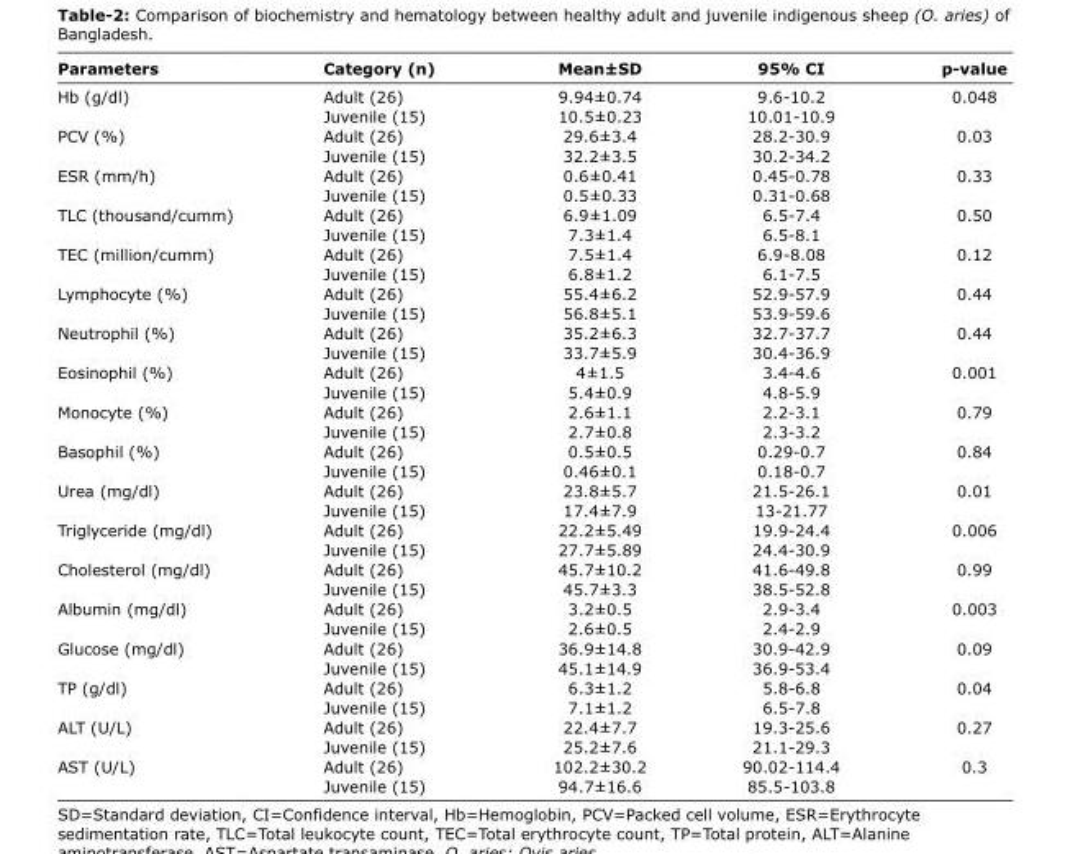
<table><thead><tr><td>Parameters</td><td>Category (n)</td><td>Mean±SD</td><td>95% CI</td><td>p-value</td></tr></thead><tbody><tr><td rowspan="2">Hb (g/dl)</td><td>Adult (26)</td><td>9.94±0.74</td><td>9.6-10.2</td><td>0.048</td></tr><tr><td>Juvenile (15)</td><td>10.5±0.23</td><td>10.01-10.9</td><td></td></tr><tr><td rowspan="2">PCV (%)</td><td>Adult (26)</td><td>29.6±3.4</td><td>28.2-30.9</td><td>0.03</td></tr><tr><td>Juvenile (15)</td><td>32.2±3.5</td><td>30.2-34.2</td><td></td></tr><tr><td rowspan="2">ESR (mm/h)</td><td>Adult (26)</td><td>0.6±0.41</td><td>0.45-0.78</td><td>0.33</td></tr><tr><td>Juvenile (15)</td><td>0.5±0.33</td><td>0.31-0.68</td><td></td></tr><tr><td rowspan="2">TLC (thousand/cumm)</td><td>Adult (26)</td><td>6.9±1.09</td><td>6.5-7.4</td><td>0.50</td></tr><tr><td>Juvenile (15)</td><td>7.3±1.4</td><td>6.5-8.1</td><td></td></tr><tr><td rowspan="2">TEC (million/cumm)</td><td>Adult (26)</td><td>7.5±1.4</td><td>6.9-8.08</td><td>0.12</td></tr><tr><td>Juvenile (15)</td><td>6.8±1.2</td><td>6.1-7.5</td><td></td></tr><tr><td rowspan="2">Lymphocyte (%)</td><td>Adult (26)</td><td>55.4±6.2</td><td>52.9-57.9</td><td>0.44</td></tr><tr><td>Juvenile (15)</td><td>56.8±5.1</td><td>53.9-59.6</td><td></td></tr><tr><td rowspan="2">Neutrophil (%)</td><td>Adult (26)</td><td>35.2±6.3</td><td>32.7-37.7</td><td>0.44</td></tr><tr><td>Juvenile (15)</td><td>33.7±5.9</td><td>30.4-36.9</td><td></td></tr><tr><td rowspan="2">Eosinophil (%)</td><td>Adult (26)</td><td>4±1.5</td><td>3.4-4.6</td><td>0.001</td></tr><tr><td>Juvenile (15)</td><td>5.4±0.9</td><td>4.8-5.9</td><td></td></tr><tr><td rowspan="2">Monocyte (%)</td><td>Adult (26)</td><td>2.6±1.1</td><td>2.2-3.1</td><td>0.79</td></tr><tr><td>Juvenile (15)</td><td>2.7±0.8</td><td>2.3-3.2</td><td></td></tr><tr><td rowspan="2">Basophil (%)</td><td>Adult (26)</td><td>0.5±0.5</td><td>0.29-0.7</td><td>0.84</td></tr><tr><td>Juvenile (15)</td><td>0.46±0.1</td><td>0.18-0.7</td><td></td></tr><tr><td rowspan="2">Urea (mg/dl)</td><td>Adult (26)</td><td>23.8±5.7</td><td>21.5-26.1</td><td>0.01</td></tr><tr><td>Juvenile (15)</td><td>17.4±7.9</td><td>13-21.77</td><td></td></tr><tr><td rowspan="2">Triglyceride (mg/dl)</td><td>Adult (26)</td><td>22.2±5.49</td><td>19.9-24.4</td><td>0.006</td></tr><tr><td>Juvenile (15)</td><td>27.7±5.89</td><td>24.4-30.9</td><td></td></tr><tr><td rowspan="2">Cholesterol (mg/dl)</td><td>Adult (26)</td><td>45.7±10.2</td><td>41.6-49.8</td><td>0.99</td></tr><tr><td>Juvenile (15)</td><td>45.7±3.3</td><td>38.5-52.8</td><td></td></tr><tr><td rowspan="2">Albumin (mg/dl)</td><td>Adult (26)</td><td>3.2±0.5</td><td>2.9-3.4</td><td>0.003</td></tr><tr><td>Juvenile (15)</td><td>2.6±0.5</td><td>2.4-2.9</td><td></td></tr><tr><td rowspan="2">Glucose (mg/dl)</td><td>Adult (26)</td><td>36.9±14.8</td><td>30.9-42.9</td><td>0.09</td></tr><tr><td>Juvenile (15)</td><td>45.1±14.9</td><td>36.9-53.4</td><td></td></tr><tr><td rowspan="2">TP (g/dl)</td><td>Adult (26)</td><td>6.3±1.2</td><td>5.8-6.8</td><td>0.04</td></tr><tr><td>Juvenile (15)</td><td>7.1±1.2</td><td>6.5-7.8</td><td></td></tr><tr><td rowspan="2">ALT (U/L)</td><td>Adult (26)</td><td>22.4±7.7</td><td>19.3-25.6</td><td>0.27</td></tr><tr><td>Juvenile (15)</td><td>25.2±7.6</td><td>21.1-29.3</td><td></td></tr><tr><td rowspan="2">AST (U/L)</td><td>Adult (26)</td><td>102.2±30.2</td><td>90.02-114.4</td><td>0.3</td></tr><tr><td>Juvenile (15)</td><td>94.7±16.6</td><td>85.5-103.8</td><td></td></tr></tbody></table>